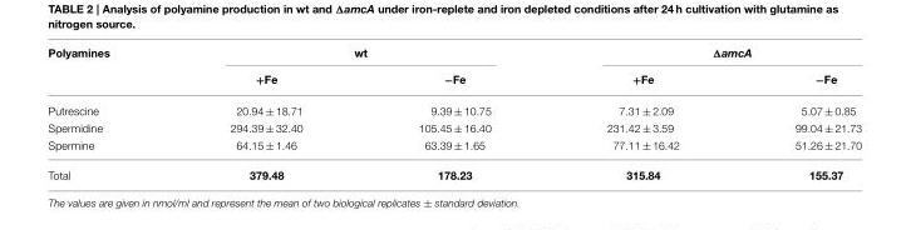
<table><thead><tr><td rowspan="2">Polyamines</td><td colspan="2">wt</td><td colspan="2">ΔamcA</td></tr><tr><td>+Fe</td><td>−Fe</td><td>+Fe</td><td>−Fe</td></tr></thead><tbody><tr><td>Putrescine</td><td>20.94 ± 18.71</td><td>9.39 ± 10.75</td><td>7.31 ± 2.09</td><td>5.07 ± 0.85</td></tr><tr><td>Spermidine</td><td>294.39 ± 32.40</td><td>105.45 ± 16.40</td><td>231.42 ± 3.59</td><td>99.04 ± 21.73</td></tr><tr><td>Spermine</td><td>64.15 ± 1.46</td><td>63.39 ± 1.65</td><td>77.11 ± 16.42</td><td>51.26 ± 21.70</td></tr><tr><td>Total</td><td>379.48</td><td>178.23</td><td>315.84</td><td>155.37</td></tr></tbody></table>